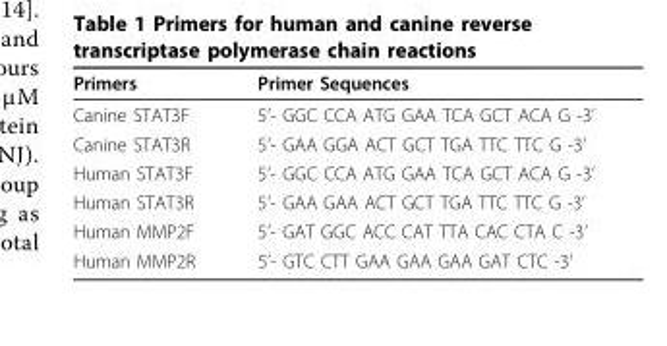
<table><thead><tr><td>Primers</td><td>Primer Sequences</td></tr></thead><tbody><tr><td>Canine STAT3F</td><td>5’- GGC CCA ATG GAA TCA GCT ACA G -3’</td></tr><tr><td>Canine STAT3R</td><td>5’- GAA GGA ACT GCT TGA TTC TTC G -3’</td></tr><tr><td>Human STAT3F</td><td>5’- GGC CCA ATG GAA TCA GCT ACA G -3’</td></tr><tr><td>Human STAT3R</td><td>5’- GAA GAA ACT GCT TGA TTC TTC G -3’</td></tr><tr><td>Human MMP2F</td><td>5’- GAT GGC ACC CAT TTA CAC CTA C -3’</td></tr><tr><td>Human MMP2R</td><td>5’- GTC CTT GAA GAA GAA GAT CTC -3’</td></tr></tbody></table>